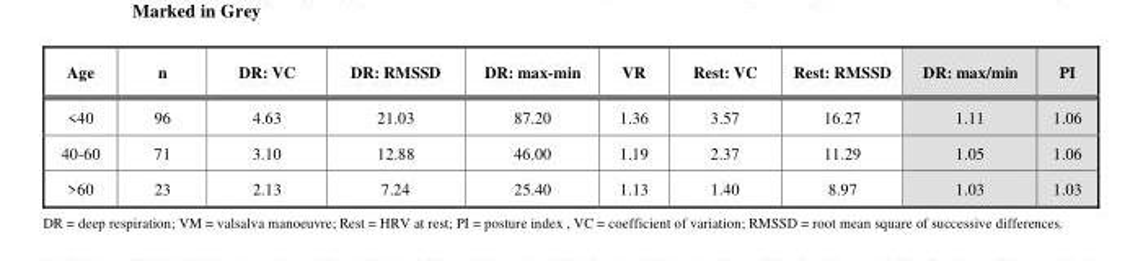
<table><thead><tr><td>Age</td><td>n</td><td>DR: VC</td><td>DR: RMSSD</td><td>DR: max-min</td><td>VR</td><td>Rest: VC</td><td>Rest: RMSSD</td><td>DR: max/min</td><td>PI</td></tr></thead><tbody><tr><td>&lt;40</td><td>96</td><td>4.63</td><td>21.03</td><td>87.20</td><td>1.36</td><td>3.57</td><td>16.27</td><td>1.11</td><td>1.06</td></tr><tr><td>40-60</td><td>71</td><td>3.10</td><td>12.88</td><td>46.00</td><td>1.19</td><td>2.37</td><td>11.29</td><td>1.05</td><td>1.06</td></tr><tr><td>&gt;60</td><td>23</td><td>2.13</td><td>7.24</td><td>25.40</td><td>1.13</td><td>1.40</td><td>8.97</td><td>1.03</td><td>1.03</td></tr></tbody></table>